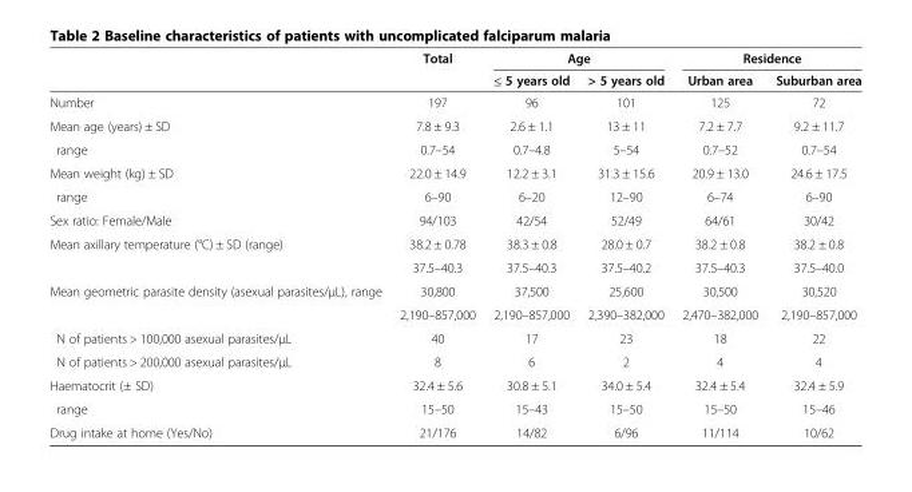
<table><thead><tr><td rowspan="2"></td><td rowspan="2">Total</td><td colspan="2">Age</td><td colspan="2">Residence</td></tr><tr><td>≤ 5 years old</td><td>&gt; 5 years old</td><td>Urban area</td><td>Suburban area</td></tr></thead><tbody><tr><td>Number</td><td>197</td><td>96</td><td>101</td><td>125</td><td>72</td></tr><tr><td>Mean age (years) ± SD</td><td>7.8 ± 9.3</td><td>2.6 ± 1.1</td><td>13 ± 11</td><td>7.2 ± 7.7</td><td>9.2 ± 11.7</td></tr><tr><td>range</td><td>0.7–54</td><td>0.7–4.8</td><td>5–54</td><td>0.7–52</td><td>0.7–54</td></tr><tr><td>Mean weight (kg) ± SD</td><td>22.0 ± 14.9</td><td>12.2 ± 3.1</td><td>31.3 ± 15.6</td><td>20.9 ± 13.0</td><td>24.6 ± 17.5</td></tr><tr><td>range</td><td>6–90</td><td>6–20</td><td>12–90</td><td>6–74</td><td>6–90</td></tr><tr><td>Sex ratio: Female/Male</td><td>94/103</td><td>42/54</td><td>52/49</td><td>64/61</td><td>30/42</td></tr><tr><td rowspan="2">Mean axillary temperature (°C) ± SD (range)</td><td>38.2 ± 0.78</td><td>38.3 ± 0.8</td><td>28.0 ± 0.7</td><td>38.2 ± 0.8</td><td>38.2 ± 0.8</td></tr><tr><td>37.5–40.3</td><td>37.5–40.3</td><td>37.5–40.2</td><td>37.5–40.3</td><td>37.5–40.0</td></tr><tr><td rowspan="2">Mean geometric parasite density (asexual parasites/μL), range</td><td>30,800</td><td>37,500</td><td>25,600</td><td>30,500</td><td>30,520</td></tr><tr><td>2,190–857,000</td><td>2,190–857,000</td><td>2,390–382,000</td><td>2,470–382,000</td><td>2,190–857,000</td></tr><tr><td>N of patients &gt; 100,000 asexual parasites/μL</td><td>40</td><td>17</td><td>23</td><td>18</td><td>22</td></tr><tr><td>N of patients &gt; 200,000 asexual parasites/μL</td><td>8</td><td>6</td><td>2</td><td>4</td><td>4</td></tr><tr><td>Haematocrit (± SD)</td><td>32.4 ± 5.6</td><td>30.8 ± 5.1</td><td>34.0 ± 5.4</td><td>32.4 ± 5.4</td><td>32.4 ± 5.9</td></tr><tr><td>range</td><td>15–50</td><td>15–43</td><td>15–50</td><td>15–50</td><td>15–46</td></tr><tr><td>Drug intake at home (Yes/No)</td><td>21/176</td><td>14/82</td><td>6/96</td><td>11/114</td><td>10/62</td></tr></tbody></table>